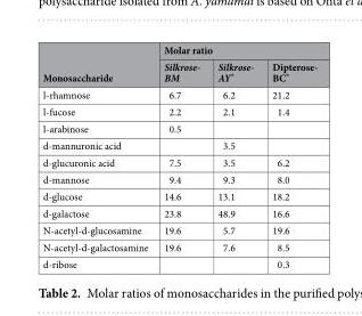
<table><thead><tr><td rowspan="2">Monosaccharide</td><td colspan="3">Molar ratio</td></tr><tr><td>Silkrose- BM</td><td>Silkrose- AY*</td><td>Dipterose- BC*</td></tr></thead><tbody><tr><td>l-rhamnose</td><td>6.7</td><td>6.2</td><td>21.2</td></tr><tr><td>l-fucose</td><td>2.2</td><td>2.1</td><td>1.4</td></tr><tr><td>l-arabinose</td><td>0.5</td><td></td><td></td></tr><tr><td>d-mannuronic acid</td><td></td><td>3.5</td><td></td></tr><tr><td>d-glucuronic acid</td><td>7.5</td><td>3.5</td><td>6.2</td></tr><tr><td>d-mannose</td><td>9.4</td><td>9.3</td><td>8.0</td></tr><tr><td>d-glucose</td><td>14.6</td><td>13.1</td><td>18.2</td></tr><tr><td>d-galactose</td><td>23.8</td><td>48.9</td><td>16.6</td></tr><tr><td>N-acetyl-d-glucosamine</td><td>19.6</td><td>5.7</td><td>19.6</td></tr><tr><td>N-acetyl-d-galactosamine</td><td>19.6</td><td>7.6</td><td>8.5</td></tr><tr><td>d-ribose</td><td></td><td></td><td>0.3</td></tr></tbody></table>